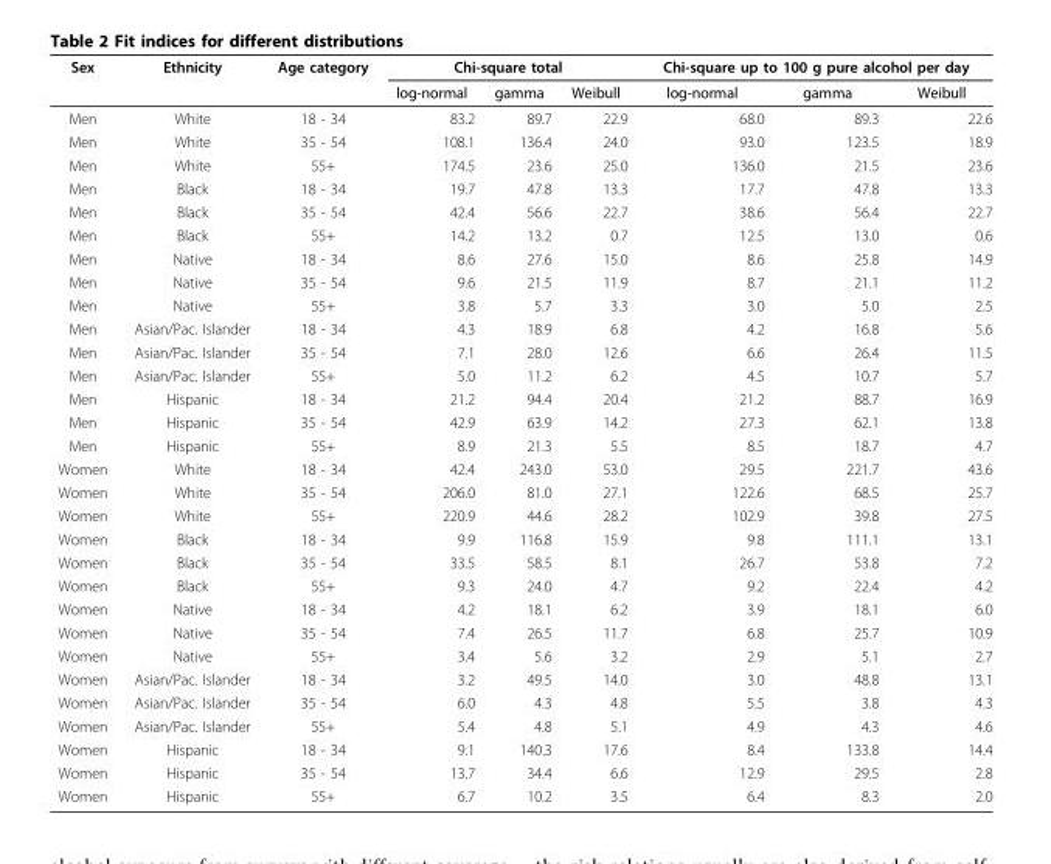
<table><thead><tr><td rowspan="2">Sex</td><td rowspan="2">Ethnicity</td><td rowspan="2">Age category</td><td colspan="3">Chi-square total</td><td colspan="3">Chi-square up to 100 g pure alcohol per day</td></tr><tr><td>log-normal</td><td>gamma</td><td>Weibull</td><td>log-normal</td><td>gamma</td><td>Weibull</td></tr></thead><tbody><tr><td>Men</td><td>White</td><td>18 - 34</td><td>83.2</td><td>89.7</td><td>22.9</td><td>68.0</td><td>89.3</td><td>22.6</td></tr><tr><td>Men</td><td>White</td><td>35 - 54</td><td>108.1</td><td>136.4</td><td>24.0</td><td>93.0</td><td>123.5</td><td>18.9</td></tr><tr><td>Men</td><td>White</td><td>55+</td><td>174.5</td><td>23.6</td><td>25.0</td><td>136.0</td><td>21.5</td><td>23.6</td></tr><tr><td>Men</td><td>Black</td><td>18 - 34</td><td>19.7</td><td>47.8</td><td>13.3</td><td>17.7</td><td>47.8</td><td>13.3</td></tr><tr><td>Men</td><td>Black</td><td>35 - 54</td><td>42.4</td><td>56.6</td><td>22.7</td><td>38.6</td><td>56.4</td><td>22.7</td></tr><tr><td>Men</td><td>Black</td><td>55+</td><td>14.2</td><td>13.2</td><td>0.7</td><td>12.5</td><td>13.0</td><td>0.6</td></tr><tr><td>Men</td><td>Native</td><td>18 - 34</td><td>8.6</td><td>27.6</td><td>15.0</td><td>8.6</td><td>25.8</td><td>14.9</td></tr><tr><td>Men</td><td>Native</td><td>35 - 54</td><td>9.6</td><td>21.5</td><td>11.9</td><td>8.7</td><td>21.1</td><td>11.2</td></tr><tr><td>Men</td><td>Native</td><td>55+</td><td>3.8</td><td>5.7</td><td>3.3</td><td>3.0</td><td>5.0</td><td>2.5</td></tr><tr><td>Men</td><td>Asian/Pac. Islander</td><td>18 - 34</td><td>4.3</td><td>18.9</td><td>6.8</td><td>4.2</td><td>16.8</td><td>5.6</td></tr><tr><td>Men</td><td>Asian/Pac. Islander</td><td>35 - 54</td><td>7.1</td><td>28.0</td><td>12.6</td><td>6.6</td><td>26.4</td><td>11.5</td></tr><tr><td>Men</td><td>Asian/Pac. Islander</td><td>55+</td><td>5.0</td><td>11.2</td><td>6.2</td><td>4.5</td><td>10.7</td><td>5.7</td></tr><tr><td>Men</td><td>Hispanic</td><td>18 - 34</td><td>21.2</td><td>94.4</td><td>20.4</td><td>21.2</td><td>88.7</td><td>16.9</td></tr><tr><td>Men</td><td>Hispanic</td><td>35 - 54</td><td>42.9</td><td>63.9</td><td>14.2</td><td>27.3</td><td>62.1</td><td>13.8</td></tr><tr><td>Men</td><td>Hispanic</td><td>55+</td><td>8.9</td><td>21.3</td><td>5.5</td><td>8.5</td><td>18.7</td><td>4.7</td></tr><tr><td>Women</td><td>White</td><td>18 - 34</td><td>42.4</td><td>243.0</td><td>53.0</td><td>29.5</td><td>221.7</td><td>43.6</td></tr><tr><td>Women</td><td>White</td><td>35 - 54</td><td>206.0</td><td>81.0</td><td>27.1</td><td>122.6</td><td>68.5</td><td>25.7</td></tr><tr><td>Women</td><td>White</td><td>55+</td><td>220.9</td><td>44.6</td><td>28.2</td><td>102.9</td><td>39.8</td><td>27.5</td></tr><tr><td>Women</td><td>Black</td><td>18 - 34</td><td>9.9</td><td>116.8</td><td>15.9</td><td>9.8</td><td>111.1</td><td>13.1</td></tr><tr><td>Women</td><td>Black</td><td>35 - 54</td><td>33.5</td><td>58.5</td><td>8.1</td><td>26.7</td><td>53.8</td><td>7.2</td></tr><tr><td>Women</td><td>Black</td><td>55+</td><td>9.3</td><td>24.0</td><td>4.7</td><td>9.2</td><td>22.4</td><td>4.2</td></tr><tr><td>Women</td><td>Native</td><td>18 - 34</td><td>4.2</td><td>18.1</td><td>6.2</td><td>3.9</td><td>18.1</td><td>6.0</td></tr><tr><td>Women</td><td>Native</td><td>35 - 54</td><td>7.4</td><td>26.5</td><td>11.7</td><td>6.8</td><td>25.7</td><td>10.9</td></tr><tr><td>Women</td><td>Native</td><td>55+</td><td>3.4</td><td>5.6</td><td>3.2</td><td>2.9</td><td>5.1</td><td>2.7</td></tr><tr><td>Women</td><td>Asian/Pac. Islander</td><td>18 - 34</td><td>3.2</td><td>49.5</td><td>14.0</td><td>3.0</td><td>48.8</td><td>13.1</td></tr><tr><td>Women</td><td>Asian/Pac. Islander</td><td>35 - 54</td><td>6.0</td><td>4.3</td><td>4.8</td><td>5.5</td><td>3.8</td><td>4.3</td></tr><tr><td>Women</td><td>Asian/Pac. Islander</td><td>55+</td><td>5.4</td><td>4.8</td><td>5.1</td><td>4.9</td><td>4.3</td><td>4.6</td></tr><tr><td>Women</td><td>Hispanic</td><td>18 - 34</td><td>9.1</td><td>140.3</td><td>17.6</td><td>8.4</td><td>133.8</td><td>14.4</td></tr><tr><td>Women</td><td>Hispanic</td><td>35 - 54</td><td>13.7</td><td>34.4</td><td>6.6</td><td>12.9</td><td>29.5</td><td>2.8</td></tr><tr><td>Women</td><td>Hispanic</td><td>55+</td><td>6.7</td><td>10.2</td><td>3.5</td><td>6.4</td><td>8.3</td><td>2.0</td></tr></tbody></table>